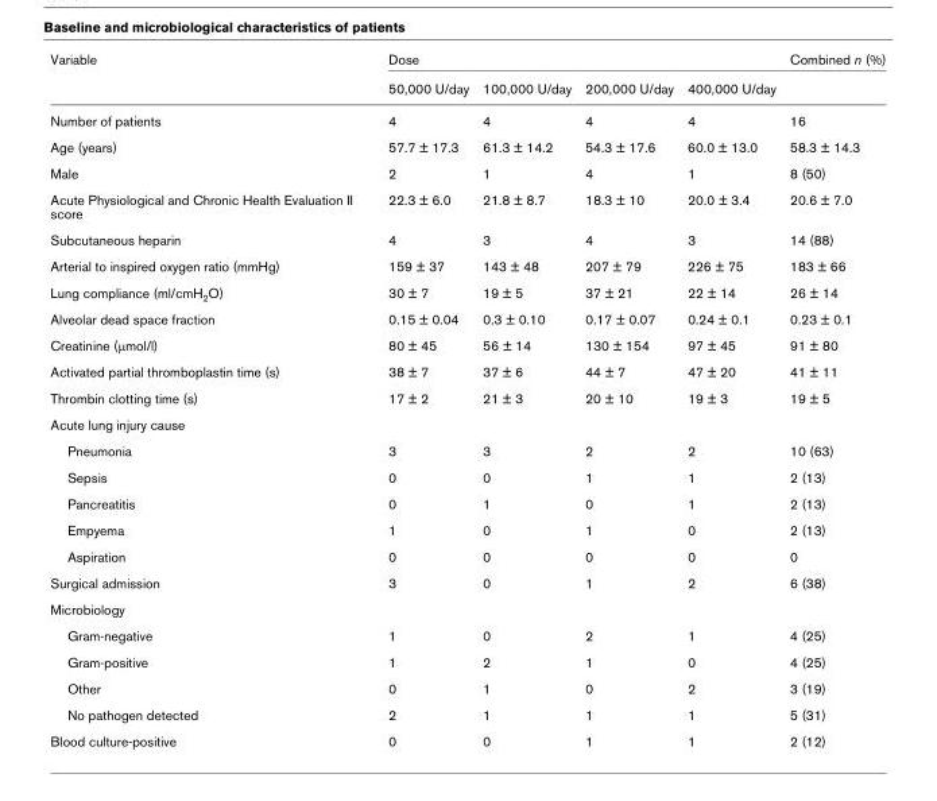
<table><thead><tr><td rowspan="2">Variable</td><td colspan="4">Dose</td><td rowspan="2">Combined n (%)</td></tr><tr><td>50,000 U/day</td><td>100,000 U/day</td><td>200,000 U/day</td><td>400,000 U/day</td></tr></thead><tbody><tr><td>Number of patients</td><td>4</td><td>4</td><td>4</td><td>4</td><td>16</td></tr><tr><td>Age (years)</td><td>57.7 ± 17.3</td><td>61.3 ± 14.2</td><td>54.3 ± 17.6</td><td>60.0 ± 13.0</td><td>58.3 ± 14.3</td></tr><tr><td>Male</td><td>2</td><td>1</td><td>4</td><td>1</td><td>8 (50)</td></tr><tr><td>Acute Physiological and Chronic Health Evaluation II score</td><td>22.3 ± 6.0</td><td>21.8 ± 8.7</td><td>18.3 ± 10</td><td>20.0 ± 3.4</td><td>20.6 ± 7.0</td></tr><tr><td>Subcutaneous heparin</td><td>4</td><td>3</td><td>4</td><td>3</td><td>14 (88)</td></tr><tr><td>Arterial to inspired oxygen ratio (mmHg)</td><td>159 ± 37</td><td>143 ± 48</td><td>207 ± 79</td><td>226 ± 75</td><td>183 ± 66</td></tr><tr><td>Lung compliance (ml/cmH<sub>2</sub>O)</td><td>30 ± 7</td><td>19 ± 5</td><td>37 ± 21</td><td>22 ± 14</td><td>26 ± 14</td></tr><tr><td>Alveolar dead space fraction</td><td>0.15 ± 0.04</td><td>0.3 ± 0.10</td><td>0.17 ± 0.07</td><td>0.24 ± 0.1</td><td>0.23 ± 0.1</td></tr><tr><td>Creatinine (μmol/l)</td><td>80 ± 45</td><td>56 ± 14</td><td>130 ± 154</td><td>97 ± 45</td><td>91 ± 80</td></tr><tr><td>Activated partial thromboplastin time (s)</td><td>38 ± 7</td><td>37 ± 6</td><td>44 ± 7</td><td>47 ± 20</td><td>41 ± 11</td></tr><tr><td>Thrombin clotting time (s)</td><td>17 ± 2</td><td>21 ± 3</td><td>20 ± 10</td><td>19 ± 3</td><td>19 ± 5</td></tr><tr><td colspan="6">Acute lung injury cause</td></tr><tr><td>Pneumonia</td><td>3</td><td>3</td><td>2</td><td>2</td><td>10 (63)</td></tr><tr><td>Sepsis</td><td>0</td><td>0</td><td>1</td><td>1</td><td>2 (13)</td></tr><tr><td>Pancreatitis</td><td>0</td><td>1</td><td>0</td><td>1</td><td>2 (13)</td></tr><tr><td>Empyema</td><td>1</td><td>0</td><td>1</td><td>0</td><td>2 (13)</td></tr><tr><td>Aspiration</td><td>0</td><td>0</td><td>0</td><td>0</td><td>0</td></tr><tr><td>Surgical admission</td><td>3</td><td>0</td><td>1</td><td>2</td><td>6 (38)</td></tr><tr><td colspan="6">Microbiology</td></tr><tr><td>Gram-negative</td><td>1</td><td>0</td><td>2</td><td>1</td><td>4 (25)</td></tr><tr><td>Gram-positive</td><td>1</td><td>2</td><td>1</td><td>0</td><td>4 (25)</td></tr><tr><td>Other</td><td>0</td><td>1</td><td>0</td><td>2</td><td>3 (19)</td></tr><tr><td>No pathogen detected</td><td>2</td><td>1</td><td>1</td><td>1</td><td>5 (31)</td></tr><tr><td>Blood culture-positive</td><td>0</td><td>0</td><td>1</td><td>1</td><td>2 (12)</td></tr></tbody></table>